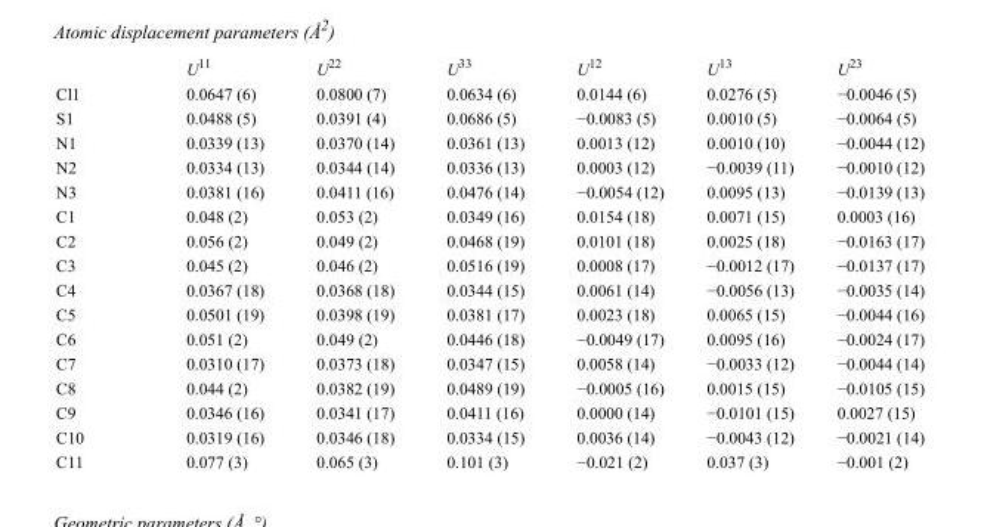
<table><thead><tr><td></td><td>U<sup>11</sup></td><td>U<sup>22</sup></td><td>U<sup>33</sup></td><td>U<sup>12</sup></td><td>U<sup>13</sup></td><td>U<sup>23</sup></td></tr></thead><tbody><tr><td>Cl1</td><td>0.0647 (6)</td><td>0.0800 (7)</td><td>0.0634 (6)</td><td>0.0144 (6)</td><td>0.0276 (5)</td><td>−0.0046 (5)</td></tr><tr><td>S1</td><td>0.0488 (5)</td><td>0.0391 (4)</td><td>0.0686 (5)</td><td>−0.0083 (5)</td><td>0.0010 (5)</td><td>−0.0064 (5)</td></tr><tr><td>N1</td><td>0.0339 (13)</td><td>0.0370 (14)</td><td>0.0361 (13)</td><td>0.0013 (12)</td><td>0.0010 (10)</td><td>−0.0044 (12)</td></tr><tr><td>N2</td><td>0.0334 (13)</td><td>0.0344 (14)</td><td>0.0336 (13)</td><td>0.0003 (12)</td><td>−0.0039 (11)</td><td>−0.0010 (12)</td></tr><tr><td>N3</td><td>0.0381 (16)</td><td>0.0411 (16)</td><td>0.0476 (14)</td><td>−0.0054 (12)</td><td>0.0095 (13)</td><td>−0.0139 (13)</td></tr><tr><td>C1</td><td>0.048 (2)</td><td>0.053 (2)</td><td>0.0349 (16)</td><td>0.0154 (18)</td><td>0.0071 (15)</td><td>0.0003 (16)</td></tr><tr><td>C2</td><td>0.056 (2)</td><td>0.049 (2)</td><td>0.0468 (19)</td><td>0.0101 (18)</td><td>0.0025 (18)</td><td>−0.0163 (17)</td></tr><tr><td>C3</td><td>0.045 (2)</td><td>0.046 (2)</td><td>0.0516 (19)</td><td>0.0008 (17)</td><td>−0.0012 (17)</td><td>−0.0137 (17)</td></tr><tr><td>C4</td><td>0.0367 (18)</td><td>0.0368 (18)</td><td>0.0344 (15)</td><td>0.0061 (14)</td><td>−0.0056 (13)</td><td>−0.0035 (14)</td></tr><tr><td>C5</td><td>0.0501 (19)</td><td>0.0398 (19)</td><td>0.0381 (17)</td><td>0.0023 (18)</td><td>0.0065 (15)</td><td>−0.0044 (16)</td></tr><tr><td>C6</td><td>0.051 (2)</td><td>0.049 (2)</td><td>0.0446 (18)</td><td>−0.0049 (17)</td><td>0.0095 (16)</td><td>−0.0024 (17)</td></tr><tr><td>C7</td><td>0.0310 (17)</td><td>0.0373 (18)</td><td>0.0347 (15)</td><td>0.0058 (14)</td><td>−0.0033 (12)</td><td>−0.0044 (14)</td></tr><tr><td>C8</td><td>0.044 (2)</td><td>0.0382 (19)</td><td>0.0489 (19)</td><td>−0.0005 (16)</td><td>0.0015 (15)</td><td>−0.0105 (15)</td></tr><tr><td>C9</td><td>0.0346 (16)</td><td>0.0341 (17)</td><td>0.0411 (16)</td><td>0.0000 (14)</td><td>−0.0101 (15)</td><td>0.0027 (15)</td></tr><tr><td>C10</td><td>0.0319 (16)</td><td>0.0346 (18)</td><td>0.0334 (15)</td><td>0.0036 (14)</td><td>−0.0043 (12)</td><td>−0.0021 (14)</td></tr><tr><td>C11</td><td>0.077 (3)</td><td>0.065 (3)</td><td>0.101 (3)</td><td>−0.021 (2)</td><td>0.037 (3)</td><td>−0.001 (2)</td></tr></tbody></table>